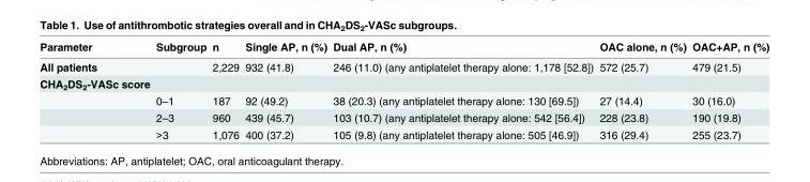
<table><thead><tr><td>Parameter</td><td>Subgroup</td><td>n</td><td>Single AP, n (%)</td><td>Dual AP, n (%)</td><td>OAC alone, n (%)</td><td>OAC+AP, n (%)</td></tr></thead><tbody><tr><td>All patients</td><td></td><td>2,229</td><td>932 (41.8)</td><td>246 (11.0) (any antiplatelet therapy alone: 1,178 [52.8])</td><td>572 (25.7)</td><td>479 (21.5)</td></tr><tr><td colspan="7">CHA<sub>2</sub>DS<sub>2</sub>-VASc score</td></tr><tr><td></td><td>0–1</td><td>187</td><td>92 (49.2)</td><td>38 (20.3) (any antiplatelet therapy alone: 130 [69.5])</td><td>27 (14.4)</td><td>30 (16.0)</td></tr><tr><td></td><td>2–3</td><td>960</td><td>439 (45.7)</td><td>103 (10.7) (any antiplatelet therapy alone: 542 [56.4])</td><td>228 (23.8)</td><td>190 (19.8)</td></tr><tr><td></td><td>&gt;3</td><td>1,076</td><td>400 (37.2)</td><td>105 (9.8) (any antiplatelet therapy alone: 505 [46.9])</td><td>316 (29.4)</td><td>255 (23.7)</td></tr></tbody></table>